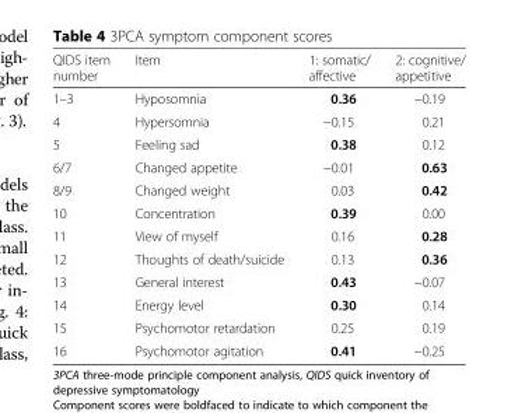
<table><thead><tr><td>QIDS item number</td><td>Item</td><td>1: somatic/ affective</td><td>2: cognitive/ appetitive</td></tr></thead><tbody><tr><td>1–3</td><td>Hyposomnia</td><td>0.36</td><td>−0.19</td></tr><tr><td>4</td><td>Hypersomnia</td><td>−0.15</td><td>0.21</td></tr><tr><td>5</td><td>Feeling sad</td><td>0.38</td><td>0.12</td></tr><tr><td>6/7</td><td>Changed appetite</td><td>−0.01</td><td>0.63</td></tr><tr><td>8/9</td><td>Changed weight</td><td>0.03</td><td>0.42</td></tr><tr><td>10</td><td>Concentration</td><td>0.39</td><td>0.00</td></tr><tr><td>11</td><td>View of myself</td><td>0.16</td><td>0.28</td></tr><tr><td>12</td><td>Thoughts of death/suicide</td><td>0.13</td><td>0.36</td></tr><tr><td>13</td><td>General interest</td><td>0.43</td><td>−0.07</td></tr><tr><td>14</td><td>Energy level</td><td>0.30</td><td>0.14</td></tr><tr><td>15</td><td>Psychomotor retardation</td><td>0.25</td><td>0.19</td></tr><tr><td>16</td><td>Psychomotor agitation</td><td>0.41</td><td>−0.25</td></tr></tbody></table>